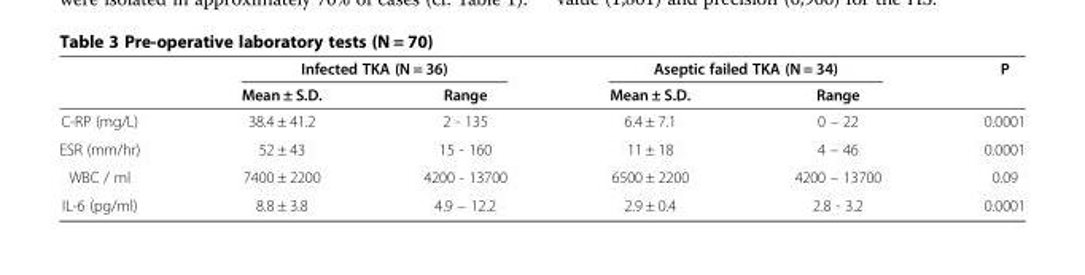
<table><thead><tr><td rowspan="2"></td><td colspan="2">Infected TKA (N = 36)</td><td colspan="2">Aseptic failed TKA (N = 34)</td><td rowspan="2">P</td></tr><tr><td>Mean ± S.D.</td><td>Range</td><td>Mean ± S.D.</td><td>Range</td></tr></thead><tbody><tr><td>C-RP (mg/L)</td><td>38.4 ± 41.2</td><td>2 - 135</td><td>6.4 ± 7.1</td><td>0 – 22</td><td>0.0001</td></tr><tr><td>ESR (mm/hr)</td><td>52 ± 43</td><td>15 - 160</td><td>11 ± 18</td><td>4 – 46</td><td>0.0001</td></tr><tr><td>WBC / ml</td><td>7400 ± 2200</td><td>4200 - 13700</td><td>6500 ± 2200</td><td>4200 – 13700</td><td>0.09</td></tr><tr><td>IL-6 (pg/ml)</td><td>8.8 ± 3.8</td><td>4.9 – 12.2</td><td>2.9 ± 0.4</td><td>2.8 - 3.2</td><td>0.0001</td></tr></tbody></table>